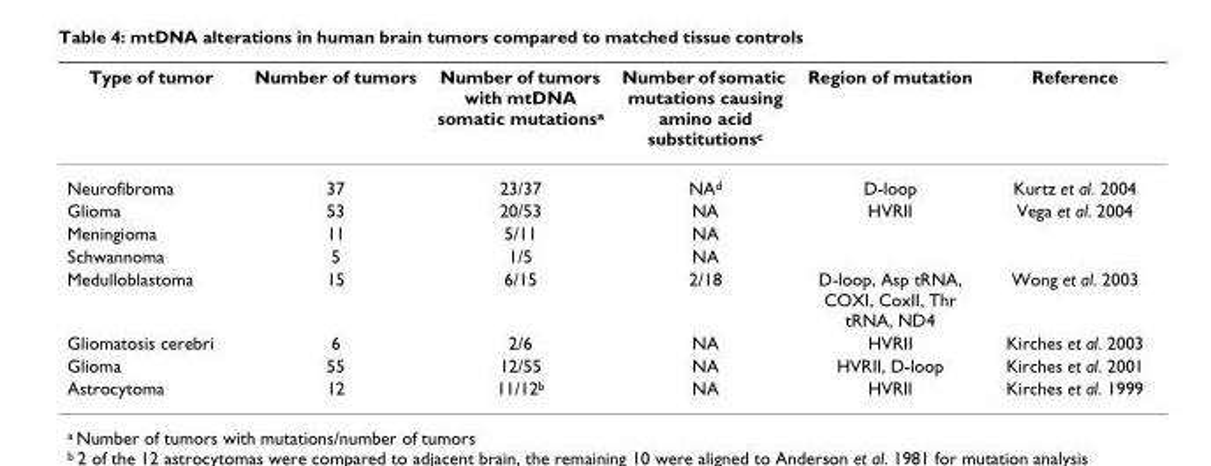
<table><thead><tr><td>Type of tumor</td><td>Number of tumors</td><td>Number of tumors with mtDNA somatic mutationsa</td><td>Number of somatic mutations causing amino acid substitutionsc</td><td>Region of mutation</td><td>Reference</td></tr></thead><tbody><tr><td>Neurofibroma</td><td>37</td><td>23/37</td><td>NAd</td><td>D-loop</td><td>Kurtz et al. 2004</td></tr><tr><td>Glioma</td><td>53</td><td>20/53</td><td>NA</td><td>HVRII</td><td>Vega et al. 2004</td></tr><tr><td>Meningioma</td><td>11</td><td>5/11</td><td>NA</td><td></td><td></td></tr><tr><td>Schwannoma</td><td>5</td><td>1/5</td><td>NA</td><td></td><td></td></tr><tr><td>Medulloblastoma</td><td>15</td><td>6/15</td><td>2/18</td><td>D-loop, Asp tRNA, COXI, CoxII, Thr tRNA, ND4</td><td>Wong et al. 2003</td></tr><tr><td>Gliomatosis cerebri</td><td>6</td><td>2/6</td><td>NA</td><td>HVRII</td><td>Kirches et al. 2003</td></tr><tr><td>Glioma</td><td>55</td><td>12/55</td><td>NA</td><td>HVRII, D-loop</td><td>Kirches et al. 2001</td></tr><tr><td>Astrocytoma</td><td>12</td><td>11/12b</td><td>NA</td><td>HVRII</td><td>Kirches et al. 1999</td></tr></tbody></table>